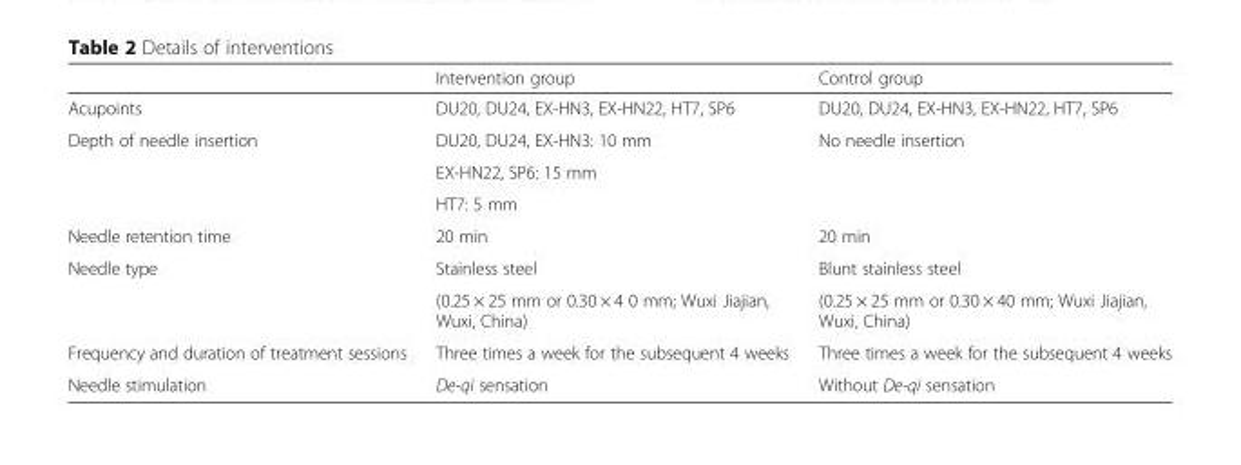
<table><thead><tr><td></td><td>Intervention group</td><td>Control group</td></tr></thead><tbody><tr><td>Acupoints</td><td>DU20, DU24, EX-HN3, EX-HN22, HT7, SP6</td><td>DU20, DU24, EX-HN3, EX-HN22, HT7, SP6</td></tr><tr><td rowspan="3">Depth of needle insertion</td><td>DU20, DU24, EX-HN3: 10 mm</td><td rowspan="3">No needle insertion</td></tr><tr><td>EX-HN22, SP6: 15 mm</td></tr><tr><td>HT7: 5 mm</td></tr><tr><td>Needle retention time</td><td>20 min</td><td>20 min</td></tr><tr><td rowspan="2">Needle type</td><td>Stainless steel</td><td>Blunt stainless steel</td></tr><tr><td>(0.25 × 25 mm or 0.30 × 4 0 mm; Wuxi Jiajian, Wuxi, China)</td><td>(0.25 × 25 mm or 0.30 × 40 mm; Wuxi Jiajian, Wuxi, China)</td></tr><tr><td>Frequency and duration of treatment sessions</td><td>Three times a week for the subsequent 4 weeks</td><td>Three times a week for the subsequent 4 weeks</td></tr><tr><td>Needle stimulation</td><td>De-qi sensation</td><td>Without De-qi sensation</td></tr></tbody></table>